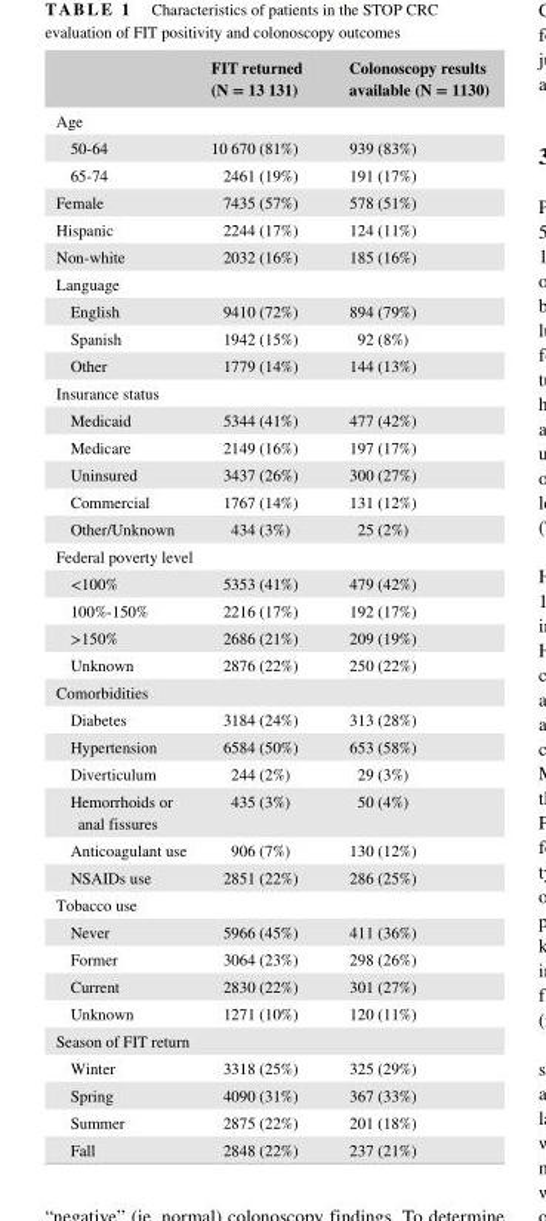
<table><thead><tr><td></td><td>FIT returned (N = 13 131)</td><td>Colonoscopy results available (N = 1130)</td></tr></thead><tbody><tr><td colspan="3">Age</td></tr><tr><td>50- 64</td><td>10 670 (81%)</td><td>939 (83%)</td></tr><tr><td>65- 74</td><td>2461 (19%)</td><td>191 (17%)</td></tr><tr><td>Female</td><td>7435 (57%)</td><td>578 (51%)</td></tr><tr><td>Hispanic</td><td>2244 (17%)</td><td>124 (11%)</td></tr><tr><td>Non- white</td><td>2032 (16%)</td><td>185 (16%)</td></tr><tr><td colspan="3">Language</td></tr><tr><td>English</td><td>9410 (72%)</td><td>894 (79%)</td></tr><tr><td>Spanish</td><td>1942 (15%)</td><td>92 (8%)</td></tr><tr><td>Other</td><td>1779 (14%)</td><td>144 (13%)</td></tr><tr><td colspan="3">Insurance status</td></tr><tr><td>Medicaid</td><td>5344 (41%)</td><td>477 (42%)</td></tr><tr><td>Medicare</td><td>2149 (16%)</td><td>197 (17%)</td></tr><tr><td>Uninsured</td><td>3437 (26%)</td><td>300 (27%)</td></tr><tr><td>Commercial</td><td>1767 (14%)</td><td>131 (12%)</td></tr><tr><td>Other/Unknown</td><td>434 (3%)</td><td>25 (2%)</td></tr><tr><td colspan="3">Federal poverty level</td></tr><tr><td>&lt;100%</td><td>5353 (41%)</td><td>479 (42%)</td></tr><tr><td>100%- 150%</td><td>2216 (17%)</td><td>192 (17%)</td></tr><tr><td>&gt;150%</td><td>2686 (21%)</td><td>209 (19%)</td></tr><tr><td>Unknown</td><td>2876 (22%)</td><td>250 (22%)</td></tr><tr><td colspan="3">Comorbidities</td></tr><tr><td>Diabetes</td><td>3184 (24%)</td><td>313 (28%)</td></tr><tr><td>Hypertension</td><td>6584 (50%)</td><td>653 (58%)</td></tr><tr><td>Diverticulum</td><td>244 (2%)</td><td>29 (3%)</td></tr><tr><td>Hemorrhoids or anal fissures</td><td>435 (3%)</td><td>50 (4%)</td></tr><tr><td>Anticoagulant use</td><td>906 (7%)</td><td>130 (12%)</td></tr><tr><td>NSAIDs use</td><td>2851 (22%)</td><td>286 (25%)</td></tr><tr><td colspan="3">Tobacco use</td></tr><tr><td>Never</td><td>5966 (45%)</td><td>411 (36%)</td></tr><tr><td>Former</td><td>3064 (23%)</td><td>298 (26%)</td></tr><tr><td>Current</td><td>2830 (22%)</td><td>301 (27%)</td></tr><tr><td>Unknown</td><td>1271 (10%)</td><td>120 (11%)</td></tr><tr><td colspan="3">Season of FIT return</td></tr><tr><td>Winter</td><td>3318 (25%)</td><td>325 (29%)</td></tr><tr><td>Spring</td><td>4090 (31%)</td><td>367 (33%)</td></tr><tr><td>Summer</td><td>2875 (22%)</td><td>201 (18%)</td></tr><tr><td>Fall</td><td>2848 (22%)</td><td>237 (21%)</td></tr></tbody></table>